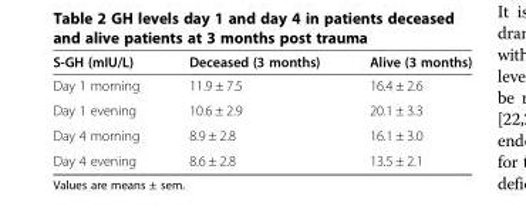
<table><thead><tr><td>S-GH (mIU/L)</td><td>Deceased (3 months)</td><td>Alive (3 months)</td></tr></thead><tbody><tr><td>Day 1 morning</td><td>11.9 ± 7.5</td><td>16.4 ± 2.6</td></tr><tr><td>Day 1 evening</td><td>10.6 ± 2.9</td><td>20.1 ± 3.3</td></tr><tr><td>Day 4 morning</td><td>8.9 ± 2.8</td><td>16.1 ± 3.0</td></tr><tr><td>Day 4 evening</td><td>8.6 ± 2.8</td><td>13.5 ± 2.1</td></tr></tbody></table>